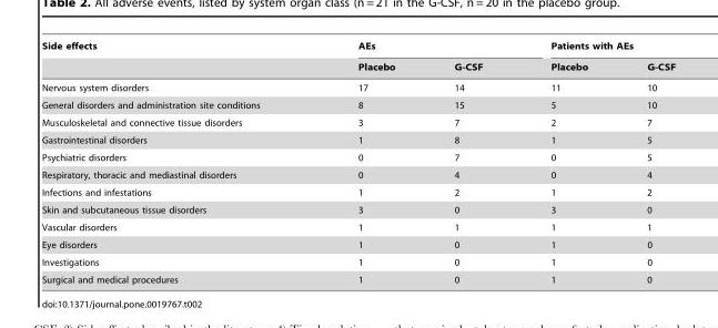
<table><thead><tr><td rowspan="2">Side effects</td><td colspan="2">AEs</td><td colspan="2">Patients with AEs</td></tr><tr><td>Placebo</td><td>G-CSF</td><td>Placebo</td><td>G-CSF</td></tr></thead><tbody><tr><td>Nervous system disorders</td><td>17</td><td>14</td><td>11</td><td>10</td></tr><tr><td>General disorders and administration site conditions</td><td>8</td><td>15</td><td>5</td><td>10</td></tr><tr><td>Musculoskeletal and connective tissue disorders</td><td>3</td><td>7</td><td>2</td><td>7</td></tr><tr><td>Gastrointestinal disorders</td><td>1</td><td>8</td><td>1</td><td>5</td></tr><tr><td>Psychiatric disorders</td><td>0</td><td>7</td><td>0</td><td>5</td></tr><tr><td>Respiratory, thoracic and mediastinal disorders</td><td>0</td><td>4</td><td>0</td><td>4</td></tr><tr><td>Infections and infestations</td><td>1</td><td>2</td><td>1</td><td>2</td></tr><tr><td>Skin and subcutaneous tissue disorders</td><td>3</td><td>0</td><td>3</td><td>0</td></tr><tr><td>Vascular disorders</td><td>1</td><td>1</td><td>1</td><td>1</td></tr><tr><td>Eye disorders</td><td>1</td><td>0</td><td>1</td><td>0</td></tr><tr><td>Investigations</td><td>1</td><td>0</td><td>1</td><td>0</td></tr><tr><td>Surgical and medical procedures</td><td>1</td><td>0</td><td>1</td><td>0</td></tr></tbody></table>